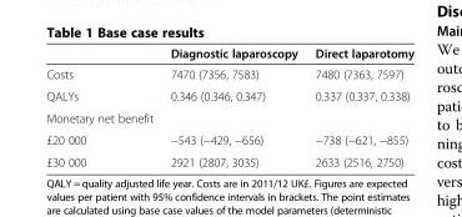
<table><thead><tr><td></td><td>Diagnostic laparoscopy</td><td>Direct laparotomy</td></tr></thead><tbody><tr><td>Costs</td><td>7470 (7356, 7583)</td><td>7480 (7363, 7597)</td></tr><tr><td>QALYs</td><td>0.346 (0.346, 0.347)</td><td>0.337 (0.337, 0.338)</td></tr><tr><td colspan="3">Monetary net benefit</td></tr><tr><td>£20 000</td><td>−543 (−429, −656)</td><td>−738 (−621, −855)</td></tr><tr><td>£30 000</td><td>2921 (2807, 3035)</td><td>2633 (2516, 2750)</td></tr></tbody></table>